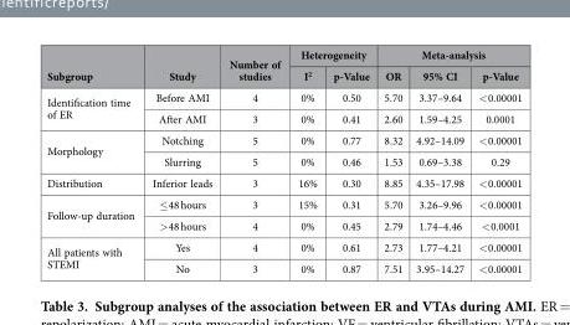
<table><thead><tr><td rowspan="2">Subgroup</td><td rowspan="2">Study</td><td rowspan="2">Number of studies</td><td colspan="2">Heterogeneity</td><td colspan="3">Meta-analysis</td></tr><tr><td>I<sup>2</sup></td><td>p-Value</td><td>OR</td><td>95% CI</td><td>p-Value</td></tr></thead><tbody><tr><td rowspan="2">Identification time of ER</td><td>Before AMI</td><td>4</td><td>0%</td><td>0.50</td><td>5.70</td><td>3.37–9.64</td><td>&lt; 0.00001</td></tr><tr><td>After AMI</td><td>3</td><td>0%</td><td>0.41</td><td>2.60</td><td>1.59–4.25</td><td>0.0001</td></tr><tr><td rowspan="2">Morphology</td><td>Notching</td><td>5</td><td>0%</td><td>0.77</td><td>8.32</td><td>4.92–14.09</td><td>&lt; 0.00001</td></tr><tr><td>Slurring</td><td>5</td><td>0%</td><td>0.46</td><td>1.53</td><td>0.69–3.38</td><td>0.29</td></tr><tr><td>Distribution</td><td>Inferior leads</td><td>3</td><td>16%</td><td>0.30</td><td>8.85</td><td>4.35–17.98</td><td>&lt; 0.00001</td></tr><tr><td rowspan="2">Follow-up duration</td><td>≤ 48 hours</td><td>3</td><td>15%</td><td>0.31</td><td>5.70</td><td>3.26–9.96</td><td>&lt; 0.00001</td></tr><tr><td>&gt; 48 hours</td><td>4</td><td>0%</td><td>0.45</td><td>2.79</td><td>1.74–4.46</td><td>&lt; 0.0001</td></tr><tr><td rowspan="2">All patients with STEMI</td><td>Yes</td><td>4</td><td>0%</td><td>0.61</td><td>2.73</td><td>1.77–4.21</td><td>&lt; 0.00001</td></tr><tr><td>No</td><td>3</td><td>0%</td><td>0.87</td><td>7.51</td><td>3.95–14.27</td><td>&lt; 0.00001</td></tr></tbody></table>